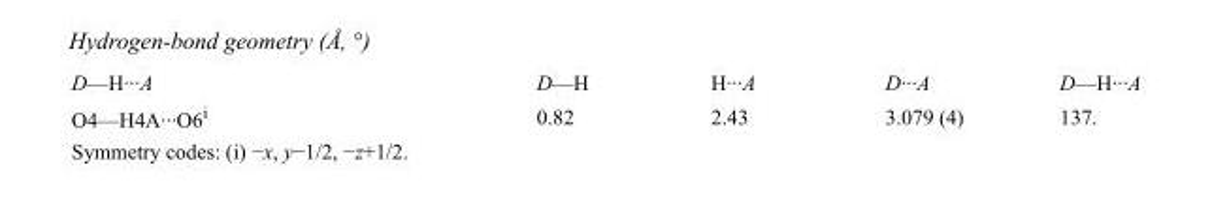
<table><tbody><tr><td>D—H···A</td><td>D—H</td><td>H···A</td><td>D···A</td><td>D—H···A</td></tr><tr><td>O4—H4A···O6<sup>i</sup></td><td>0.82</td><td>2.43</td><td>3.079 (4)</td><td>137.</td></tr></tbody></table>